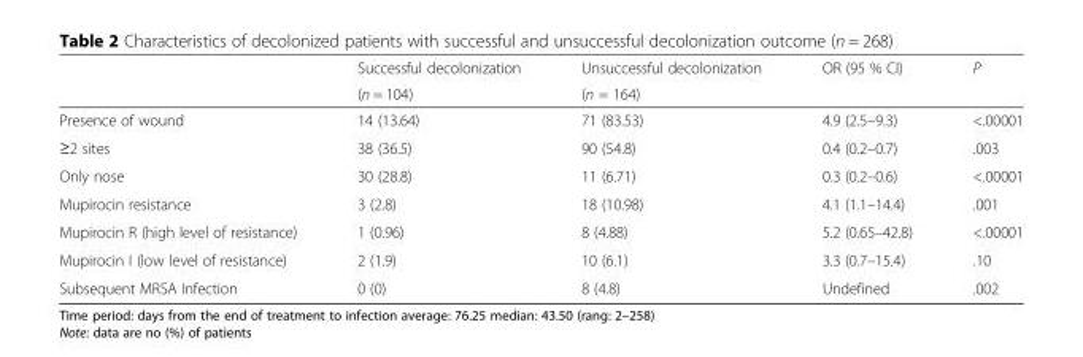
<table><thead><tr><td rowspan="2"></td><td rowspan="2">Successful decolonization (n = 104)</td><td rowspan="2">Unsuccessful decolonization (n = 164)</td><td rowspan="2">OR (95 % CI)</td><td rowspan="2">P</td></tr><tr></tr></thead><tbody><tr><td>Presence of wound</td><td>14 (13.64)</td><td>71 (83.53)</td><td>4.9 (2.5–9.3)</td><td>&lt;.00001</td></tr><tr><td>≥2 sites</td><td>38 (36.5)</td><td>90 (54.8)</td><td>0.4 (0.2–0.7)</td><td>.003</td></tr><tr><td>Only nose</td><td>30 (28.8)</td><td>11 (6.71)</td><td>0.3 (0.2–0.6)</td><td>&lt;.00001</td></tr><tr><td>Mupirocin resistance</td><td>3 (2.8)</td><td>18 (10.98)</td><td>4.1 (1.1–14.4)</td><td>.001</td></tr><tr><td>Mupirocin R (high level of resistance)</td><td>1 (0.96)</td><td>8 (4.88)</td><td>5.2 (0.65–42.8)</td><td>&lt;.00001</td></tr><tr><td>Mupirocin I (low level of resistance)</td><td>2 (1.9)</td><td>10 (6.1)</td><td>3.3 (0.7–15.4)</td><td>.10</td></tr><tr><td>Subsequent MRSA Infection</td><td>0 (0)</td><td>8 (4.8)</td><td>Undefined</td><td>.002</td></tr></tbody></table>